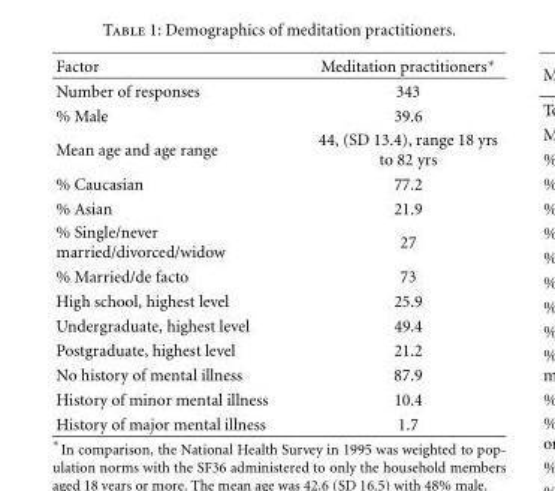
<table><thead><tr><td>Factor</td><td>Meditation practitioners∗</td></tr></thead><tbody><tr><td>Number of responses</td><td>343</td></tr><tr><td>% Male</td><td>39.6</td></tr><tr><td>Mean age and age range</td><td>44, (SD 13.4), range 18 yrs to 82 yrs</td></tr><tr><td>% Caucasian</td><td>77.2</td></tr><tr><td>% Asian</td><td>21.9</td></tr><tr><td>% Single/never married/divorced/widow</td><td>27</td></tr><tr><td>% Married/de facto</td><td>73</td></tr><tr><td>High school, highest level</td><td>25.9</td></tr><tr><td>Undergraduate, highest level</td><td>49.4</td></tr><tr><td>Postgraduate, highest level</td><td>21.2</td></tr><tr><td>No history of mental illness</td><td>87.9</td></tr><tr><td>History of minor mental illness</td><td>10.4</td></tr><tr><td>History of major mental illness</td><td>1.7</td></tr></tbody></table>